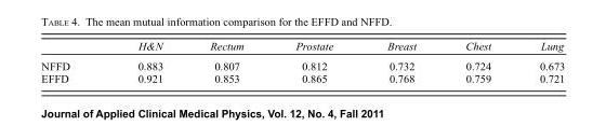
<table><thead><tr><td></td><td>H&amp;N</td><td>Rectum</td><td>Prostate</td><td>Breast</td><td>Chest</td><td>Lung</td></tr></thead><tbody><tr><td>NFFD</td><td>0.883</td><td>0.807</td><td>0.812</td><td>0.732</td><td>0.724</td><td>0.673</td></tr><tr><td>EFFD</td><td>0.921</td><td>0.853</td><td>0.865</td><td>0.768</td><td>0.759</td><td>0.721</td></tr></tbody></table>